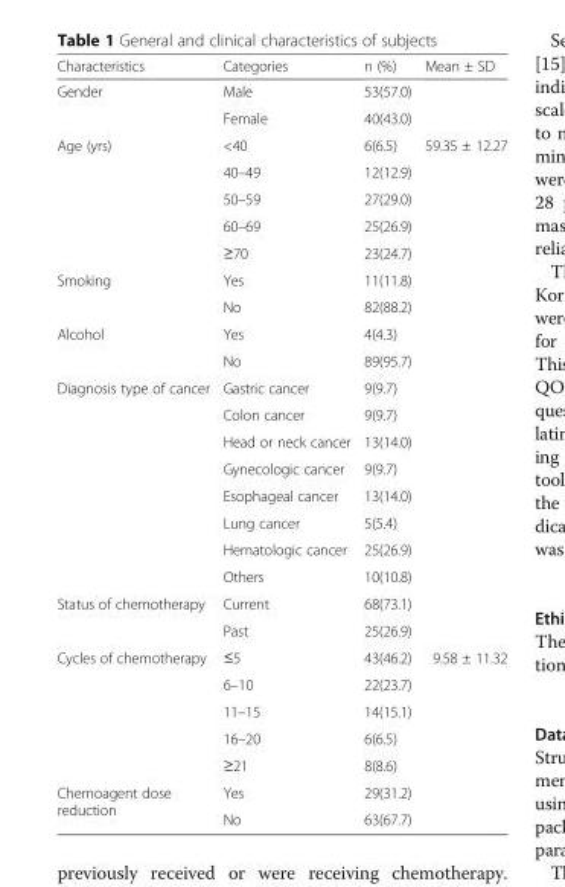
<table><thead><tr><td>Characteristics</td><td>Categories</td><td>n (%)</td><td>Mean ± SD</td></tr></thead><tbody><tr><td rowspan="2">Gender</td><td>Male</td><td>53(57.0)</td><td rowspan="2"></td></tr><tr><td>Female</td><td>40(43.0)</td></tr><tr><td rowspan="5">Age (yrs)</td><td>&lt;40</td><td>6(6.5)</td><td rowspan="5">59.35 ± 12.27</td></tr><tr><td>40–49</td><td>12(12.9)</td></tr><tr><td>50–59</td><td>27(29.0)</td></tr><tr><td>60–69</td><td>25(26.9)</td></tr><tr><td>≥70</td><td>23(24.7)</td></tr><tr><td rowspan="2">Smoking</td><td>Yes</td><td>11(11.8)</td><td rowspan="2"></td></tr><tr><td>No</td><td>82(88.2)</td></tr><tr><td rowspan="2">Alcohol</td><td>Yes</td><td>4(4.3)</td><td rowspan="2"></td></tr><tr><td>No</td><td>89(95.7)</td></tr><tr><td rowspan="8">Diagnosis type of cancer</td><td>Gastric cancer</td><td>9(9.7)</td><td rowspan="8"></td></tr><tr><td>Colon cancer</td><td>9(9.7)</td></tr><tr><td>Head or neck cancer</td><td>13(14.0)</td></tr><tr><td>Gynecologic cancer</td><td>9(9.7)</td></tr><tr><td>Esophageal cancer</td><td>13(14.0)</td></tr><tr><td>Lung cancer</td><td>5(5.4)</td></tr><tr><td>Hematologic cancer</td><td>25(26.9)</td></tr><tr><td>Others</td><td>10(10.8)</td></tr><tr><td rowspan="2">Status of chemotherapy</td><td>Current</td><td>68(73.1)</td><td rowspan="2"></td></tr><tr><td>Past</td><td>25(26.9)</td></tr><tr><td rowspan="5">Cycles of chemotherapy</td><td>≤5</td><td>43(46.2)</td><td rowspan="5">9.58 ± 11.32</td></tr><tr><td>6–10</td><td>22(23.7)</td></tr><tr><td>11–15</td><td>14(15.1)</td></tr><tr><td>16–20</td><td>6(6.5)</td></tr><tr><td>≥21</td><td>8(8.6)</td></tr><tr><td rowspan="2">Chemoagent dose reduction</td><td>Yes</td><td>29(31.2)</td><td rowspan="2"></td></tr><tr><td>No</td><td>63(67.7)</td></tr></tbody></table>